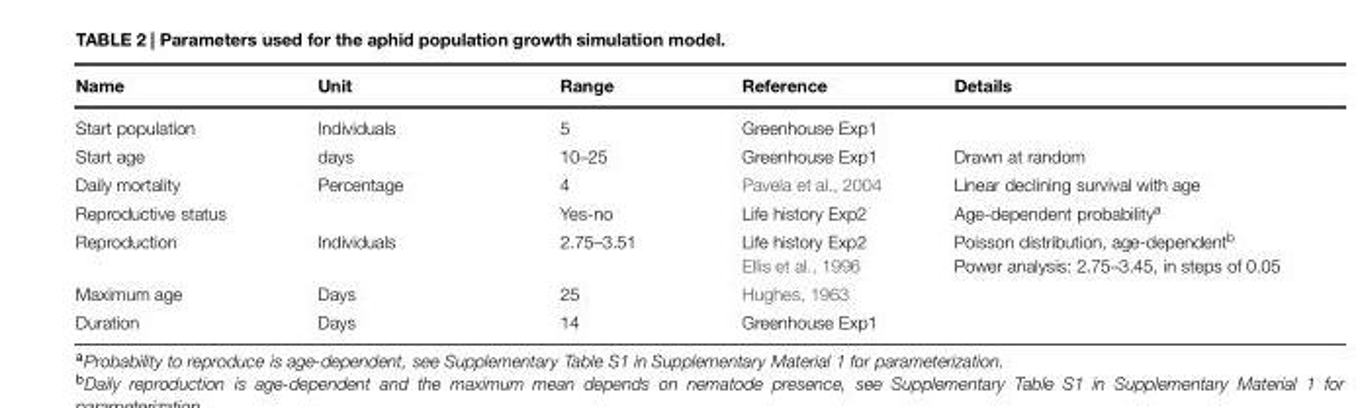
<table><thead><tr><td>Name</td><td>Unit</td><td>Range</td><td>Reference</td><td>Details</td></tr></thead><tbody><tr><td>Start population</td><td>Individuals</td><td>5</td><td>Greenhouse Exp1</td><td></td></tr><tr><td>Start age</td><td>days</td><td>10–25</td><td>Greenhouse Exp1</td><td>Drawn at random</td></tr><tr><td>Daily mortality</td><td>Percentage</td><td>4</td><td>Pavela et al., 2004</td><td>Linear declining survival with age</td></tr><tr><td>Reproductive status</td><td></td><td>Yes-no</td><td>Life history Exp2</td><td>Age-dependent probability<sup>a</sup></td></tr><tr><td>Reproduction</td><td>Individuals</td><td>2.75–3.51</td><td>Life history Exp2 Ellis et al., 1996</td><td>Poisson distribution, age-dependent<sup>b</sup> Power analysis: 2.75–3.45, in steps of 0.05</td></tr><tr><td>Maximum age</td><td>Days</td><td>25</td><td>Hughes, 1963</td><td></td></tr><tr><td>Duration</td><td>Days</td><td>14</td><td>Greenhouse Exp1</td><td></td></tr></tbody></table>